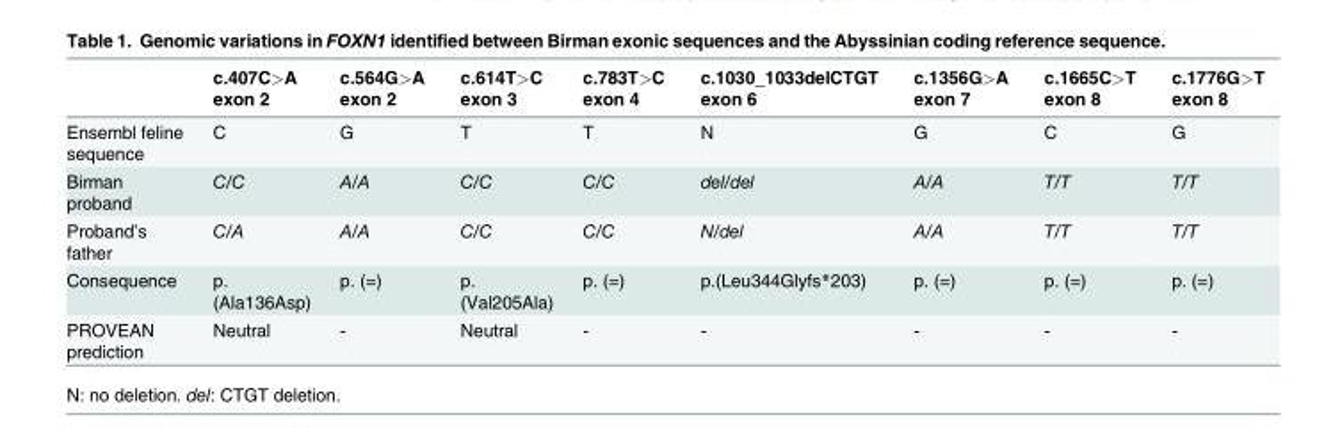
<table><thead><tr><td></td><td>c.407C&gt;A exon 2</td><td>c.564G&gt;A exon 2</td><td>c.614T&gt;C exon 3</td><td>c.783T&gt;C exon 4</td><td>c.1030_1033delCTGT exon 6</td><td>c.1356G&gt;A exon 7</td><td>c.1665C&gt;T exon 8</td><td>c.1776G&gt;T exon 8</td></tr></thead><tbody><tr><td>Ensembl feline sequence</td><td>C</td><td>G</td><td>T</td><td>T</td><td>N</td><td>G</td><td>C</td><td>G</td></tr><tr><td>Birman proband</td><td>C/C</td><td>A/A</td><td>C/C</td><td>C/C</td><td>del/del</td><td>A/A</td><td>T/T</td><td>T/T</td></tr><tr><td>Proband’s father</td><td>C/A</td><td>A/A</td><td>C/C</td><td>C/C</td><td>N/del</td><td>A/A</td><td>T/T</td><td>T/T</td></tr><tr><td>Consequence</td><td>p. (Ala136Asp)</td><td>p. (=)</td><td>p. (Val205Ala)</td><td>p. (=)</td><td>p.(Leu344Glyfs*203)</td><td>p. (=)</td><td>p. (=)</td><td>p. (=)</td></tr><tr><td>PROVEAN prediction</td><td>Neutral</td><td>-</td><td>Neutral</td><td>-</td><td>-</td><td>-</td><td>-</td><td>-</td></tr></tbody></table>